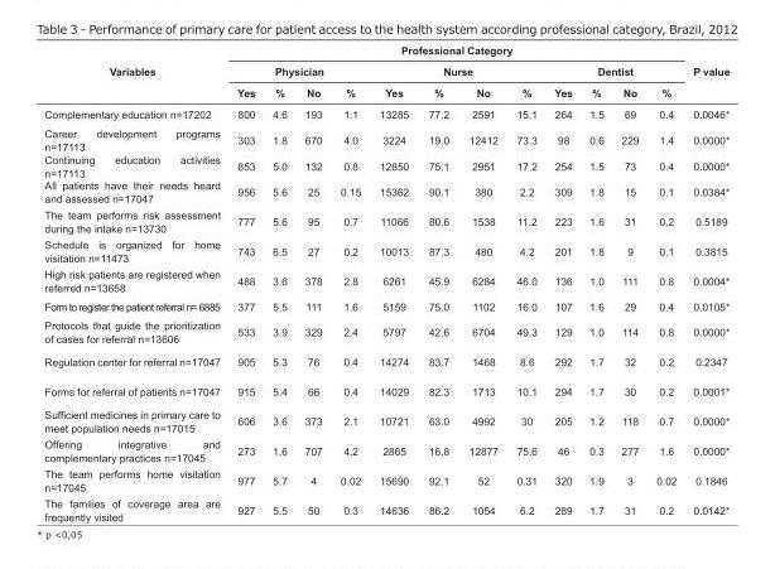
<table><thead><tr><td rowspan="3">Variables</td><td colspan="12">Professional Category</td><td rowspan="3">P value</td></tr><tr><td colspan="4">Physician</td><td colspan="4">Nurse</td><td colspan="4">Dentist</td></tr><tr><td>Yes</td><td>%</td><td>No</td><td>%</td><td>Yes</td><td>%</td><td>No</td><td>%</td><td>Yes</td><td>%</td><td>No</td><td>%</td></tr></thead><tbody><tr><td>Complementary education n=17202</td><td>800</td><td>4.6</td><td>193</td><td>1.1</td><td>13285</td><td>77.2</td><td>2591</td><td>15.1</td><td>264</td><td>1.5</td><td>69</td><td>0.4</td><td>0.0046*</td></tr><tr><td>Career development programs n=17113</td><td>303</td><td>1.8</td><td>670</td><td>4.0</td><td>3224</td><td>19.0</td><td>12412</td><td>73.3</td><td>98</td><td>0.6</td><td>229</td><td>1.4</td><td>0.0000*</td></tr><tr><td>Continuing education activities n=17113</td><td>853</td><td>5.0</td><td>132</td><td>0.8</td><td>12850</td><td>75.1</td><td>2951</td><td>17.2</td><td>254</td><td>1.5</td><td>73</td><td>0.4</td><td>0.0000*</td></tr><tr><td>All patients have their needs heard and assessed n=17047</td><td>956</td><td>5.6</td><td>25</td><td>0.15</td><td>15362</td><td>90.1</td><td>380</td><td>2.2</td><td>309</td><td>1.8</td><td>15</td><td>0.1</td><td>0.0384*</td></tr><tr><td>The team performs risk assessment during the intake n=13730</td><td>777</td><td>5.6</td><td>95</td><td>0.7</td><td>11066</td><td>80.6</td><td>1538</td><td>11.2</td><td>223</td><td>1.6</td><td>31</td><td>0.2</td><td>0.5189</td></tr><tr><td>Schedule is organized for home visitation n=11473</td><td>743</td><td>6.5</td><td>27</td><td>0.2</td><td>10013</td><td>87.3</td><td>480</td><td>4.2</td><td>201</td><td>1.8</td><td>9</td><td>0.1</td><td>0.3815</td></tr><tr><td>High risk patients are registered when referred n=13658</td><td>488</td><td>3.6</td><td>378</td><td>2.8</td><td>6261</td><td>45.9</td><td>6284</td><td>46.0</td><td>136</td><td>1.0</td><td>111</td><td>0.8</td><td>0.0004*</td></tr><tr><td>Form to register the patient referral n= 6885</td><td>377</td><td>5.5</td><td>111</td><td>1.6</td><td>5159</td><td>75.0</td><td>1102</td><td>16.0</td><td>107</td><td>1.6</td><td>29</td><td>0.4</td><td>0.0105*</td></tr><tr><td>Protocols that guide the prioritization of cases for referral n=13606</td><td>533</td><td>3.9</td><td>329</td><td>2.4</td><td>5797</td><td>42.6</td><td>6704</td><td>49.3</td><td>129</td><td>1.0</td><td>114</td><td>0.8</td><td>0.0000*</td></tr><tr><td>Regulation center for referral n=17047</td><td>905</td><td>5.3</td><td>76</td><td>0.4</td><td>14274</td><td>83.7</td><td>1468</td><td>8.6</td><td>292</td><td>1.7</td><td>32</td><td>0.2</td><td>0.2347</td></tr><tr><td>Forms for referral of patients n=17047</td><td>915</td><td>5.4</td><td>66</td><td>0.4</td><td>14029</td><td>82.3</td><td>1713</td><td>10.1</td><td>294</td><td>1.7</td><td>30</td><td>0.2</td><td>0.0001*</td></tr><tr><td>Sufficient medicines in primary care to meet population needs n=17015</td><td>606</td><td>3.6</td><td>373</td><td>2.1</td><td>10721</td><td>63.0</td><td>4992</td><td>30</td><td>205</td><td>1.2</td><td>118</td><td>0.7</td><td>0.0000*</td></tr><tr><td>Offering integrative and complementary practices n=17045</td><td>273</td><td>1.6</td><td>707</td><td>4.2</td><td>2865</td><td>16.8</td><td>12877</td><td>75.6</td><td>46</td><td>0.3</td><td>277</td><td>1.6</td><td>0.0000*</td></tr><tr><td>The team performs home visitation n=17045</td><td>977</td><td>5.7</td><td>4</td><td>0.02</td><td>15690</td><td>92.1</td><td>52</td><td>0.31</td><td>320</td><td>1.9</td><td>3</td><td>0.02</td><td>0.1846</td></tr><tr><td>The families of coverage area are frequently visited</td><td>927</td><td>5.5</td><td>50</td><td>0.3</td><td>14636</td><td>86.2</td><td>1054</td><td>6.2</td><td>289</td><td>1.7</td><td>31</td><td>0.2</td><td>0.0142*</td></tr></tbody></table>